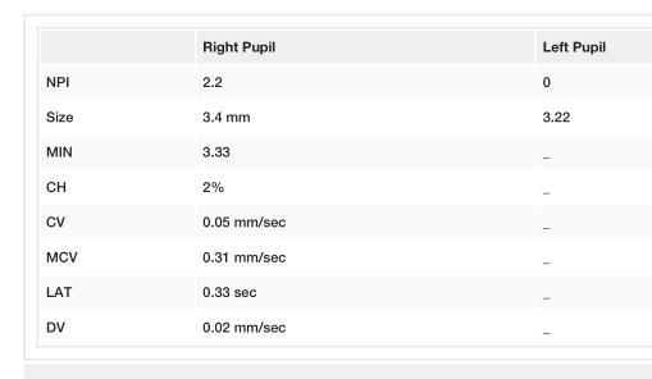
<table><thead><tr><td></td><td>Right Pupil</td><td>Left Pupil</td></tr></thead><tbody><tr><td>NPI</td><td>2.2</td><td>0</td></tr><tr><td>Size</td><td>3.4 mm</td><td>3.22</td></tr><tr><td>MIN</td><td>3.33</td><td>_</td></tr><tr><td>CH</td><td>2%</td><td>_</td></tr><tr><td>CV</td><td>0.05 mm/sec</td><td>_</td></tr><tr><td>MCV</td><td>0.31 mm/sec</td><td>_</td></tr><tr><td>LAT</td><td>0.33 sec</td><td>_</td></tr><tr><td>DV</td><td>0.02 mm/sec</td><td>_</td></tr></tbody></table>